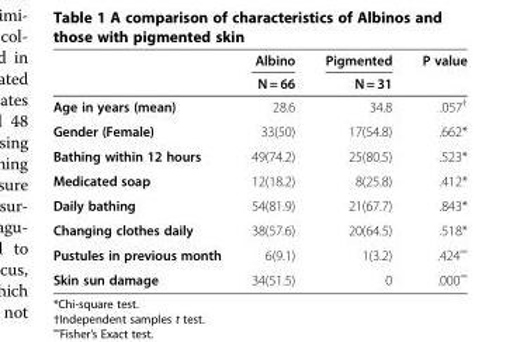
<table><thead><tr><td rowspan="2"></td><td rowspan="2">Albino N = 66</td><td rowspan="2">Pigmented N = 31</td><td rowspan="2">P value</td></tr><tr></tr></thead><tbody><tr><td>Age in years (mean)</td><td>28.6</td><td>34.8</td><td>.057<sup>†</sup></td></tr><tr><td>Gender (Female)</td><td>33(50)</td><td>17(54.8)</td><td>.662*</td></tr><tr><td>Bathing within 12 hours</td><td>49(74.2)</td><td>25(80.5)</td><td>.523*</td></tr><tr><td>Medicated soap</td><td>12(18.2)</td><td>8(25.8)</td><td>.412*</td></tr><tr><td>Daily bathing</td><td>54(81.9)</td><td>21(67.7)</td><td>.843*</td></tr><tr><td>Changing clothes daily</td><td>38(57.6)</td><td>20(64.5)</td><td>.518*</td></tr><tr><td>Pustules in previous month</td><td>6(9.1)</td><td>1(3.2)</td><td>.424<sup>∞</sup></td></tr><tr><td>Skin sun damage</td><td>34(51.5)</td><td>0</td><td>.000<sup>∞</sup></td></tr></tbody></table>